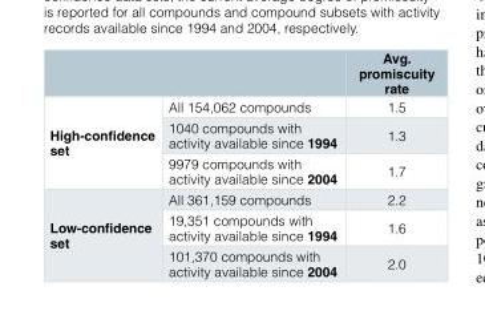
<table><thead><tr><td></td><td></td><td>Avg. promiscuity rate</td></tr></thead><tbody><tr><td rowspan="3">High-confidence set</td><td>All 154,062 compounds</td><td>1.5</td></tr><tr><td>1040 compounds with activity available since 1994</td><td>1.3</td></tr><tr><td>9979 compounds with activity available since 2004</td><td>1.7</td></tr><tr><td rowspan="3">Low-confidence set</td><td>All 361,159 compounds</td><td>2.2</td></tr><tr><td>19,351 compounds with activity available since 1994</td><td>1.6</td></tr><tr><td>101,370 compounds with activity available since 2004</td><td>2.0</td></tr></tbody></table>